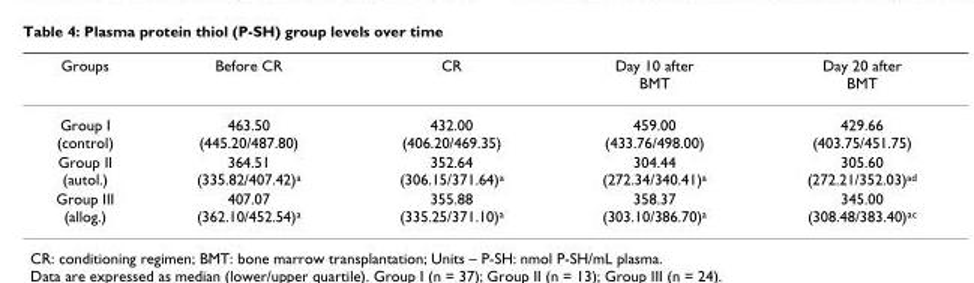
<table><thead><tr><td>Groups</td><td>Before CR</td><td>CR</td><td>Day 10 after BMT</td><td>Day 20 after BMT</td></tr></thead><tbody><tr><td>Group I (control)</td><td>463.50 (445.20/487.80)</td><td>432.00 (406.20/469.35)</td><td>459.00 (433.76/498.00)</td><td>429.66 (403.75/451.75)</td></tr><tr><td>Group II (autol.)</td><td>364.51 (335.82/407.42)<sup>a</sup></td><td>352.64 (306.15/371.64)<sup>a</sup></td><td>304.44 (272.34/340.41)<sup>a</sup></td><td>305.60 (272.21/352.03)<sup>ad</sup></td></tr><tr><td>Group III (allog.)</td><td>407.07 (362.10/452.54)<sup>a</sup></td><td>355.88 (335.25/371.10)<sup>a</sup></td><td>358.37 (303.10/386.70)<sup>a</sup></td><td>345.00 (308.48/383.40)<sup>ac</sup></td></tr></tbody></table>